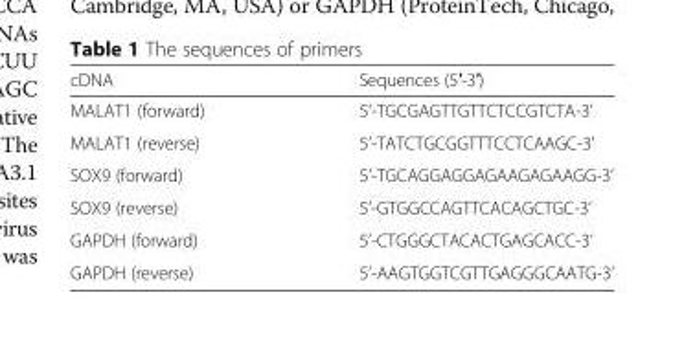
<table><thead><tr><td>cDNA</td><td>Sequences (5′-3′)</td></tr></thead><tbody><tr><td>MALAT1 (forward)</td><td>5’-TGCGAGTTGTTCTCCGTCTA-3’</td></tr><tr><td>MALAT1 (reverse)</td><td>5’-TATCTGCGGTTTCCTCAAGC-3’</td></tr><tr><td>SOX9 (forward)</td><td>5’-TGCAGGAGGAGAAGAGAAGG-3’</td></tr><tr><td>SOX9 (reverse)</td><td>5’-GTGGCCAGTTCACAGCTGC-3’</td></tr><tr><td>GAPDH (forward)</td><td>5’-CTGGGCTACACTGAGCACC-3’</td></tr><tr><td>GAPDH (reverse)</td><td>5’-AAGTGGTCGTTGAGGGCAATG-3’</td></tr></tbody></table>